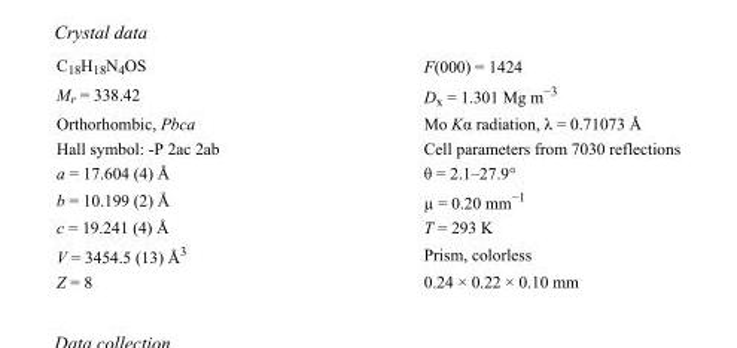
<table><tbody><tr><td>C<sub>18</sub>H<sub>18</sub>N<sub>4</sub>OS</td><td>F(000) = 1424</td></tr><tr><td>M<sub>r</sub> = 338.42</td><td>D<sub>x</sub> = 1.301 Mg m<sup>−3</sup></td></tr><tr><td>Orthorhombic, Pbca</td><td>Mo Kα radiation, λ = 0.71073 Å</td></tr><tr><td>Hall symbol: -P 2ac 2ab</td><td>Cell parameters from 7030 reflections</td></tr><tr><td>a = 17.604 (4) Å</td><td>θ = 2.1–27.9°</td></tr><tr><td>b = 10.199 (2) Å</td><td>µ = 0.20 mm<sup>−1</sup></td></tr><tr><td>c = 19.241 (4) Å</td><td>T = 293 K</td></tr><tr><td>V = 3454.5 (13) Å<sup>3</sup></td><td>Prism, colorless</td></tr><tr><td>Z = 8</td><td>0.24 × 0.22 × 0.10 mm</td></tr></tbody></table>